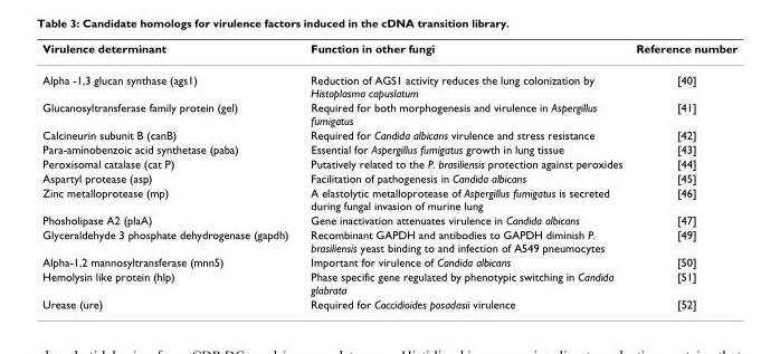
<table><thead><tr><td>Virulence determinant</td><td>Function in other fungi</td><td>Reference number</td></tr></thead><tbody><tr><td>Alpha -1,3 glucan synthase (ags1)</td><td>Reduction of AGS1 activity reduces the lung colonization by Histoplasma capuslatum</td><td>[40]</td></tr><tr><td>Glucanosyltransferase family protein (gel)</td><td>Required for both morphogenesis and virulence in Aspergillus fumigatus</td><td>[41]</td></tr><tr><td>Calcineurin subunit B (canB)</td><td>Required for Candida albicans virulence and stress resistance</td><td>[42]</td></tr><tr><td>Para-aminobenzoic acid synthetase (paba)</td><td>Essential for Aspergillus fumigatus growth in lung tissue</td><td>[43]</td></tr><tr><td>Peroxisomal catalase (cat P)</td><td>Putatively related to the P. brasiliensis protection against peroxides</td><td>[44]</td></tr><tr><td>Aspartyl protease (asp)</td><td>Facilitation of pathogenesis in Candida albicans</td><td>[45]</td></tr><tr><td>Zinc metalloprotease (mp)</td><td>A elastolytic metalloprotease of Aspergillus fumigatus is secreted during fungal invasion of murine lung</td><td>[46]</td></tr><tr><td>Phosholipase A2 (plaA)</td><td>Gene inactivation attenuates virulence in Candida albicans</td><td>[47]</td></tr><tr><td>Glyceraldehyde 3 phosphate dehydrogenase (gapdh)</td><td>Recombinant GAPDH and antibodies to GAPDH diminish P. brasiliensis yeast binding to and infection of A549 pneumocytes</td><td>[49]</td></tr><tr><td>Alpha-1,2 mannosyltransferase (mnn5)</td><td>Important for virulence of Candida albicans</td><td>[50]</td></tr><tr><td>Hemolysin like protein (hlp)</td><td>Phase specific gene regulated by phenotypic switching in Candida glabrata</td><td>[51]</td></tr><tr><td>Urease (ure)</td><td>Required for Coccidioides posadasii virulence</td><td>[52]</td></tr></tbody></table>